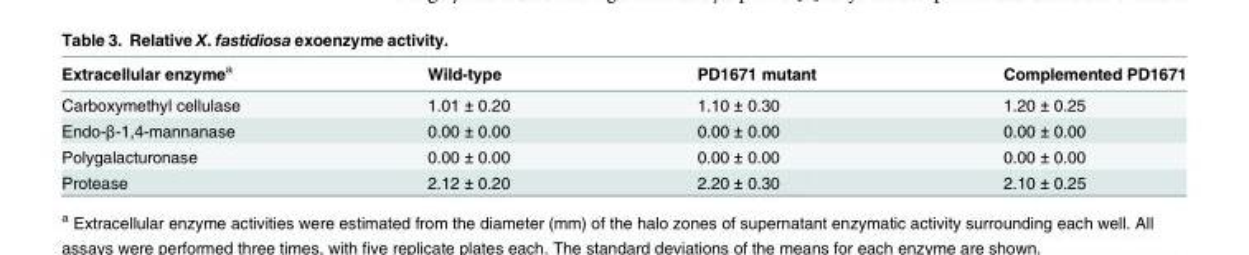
<table><thead><tr><td>Extracellular enzymea</td><td>Wild-type</td><td>PD1671 mutant</td><td>Complemented PD1671</td></tr></thead><tbody><tr><td>Carboxymethyl cellulase</td><td>1.01 ± 0.20</td><td>1.10 ± 0.30</td><td>1.20 ± 0.25</td></tr><tr><td>Endo-β-1,4-mannanase</td><td>0.00 ± 0.00</td><td>0.00 ± 0.00</td><td>0.00 ± 0.00</td></tr><tr><td>Polygalacturonase</td><td>0.00 ± 0.00</td><td>0.00 ± 0.00</td><td>0.00 ± 0.00</td></tr><tr><td>Protease</td><td>2.12 ± 0.20</td><td>2.20 ± 0.30</td><td>2.10 ± 0.25</td></tr></tbody></table>